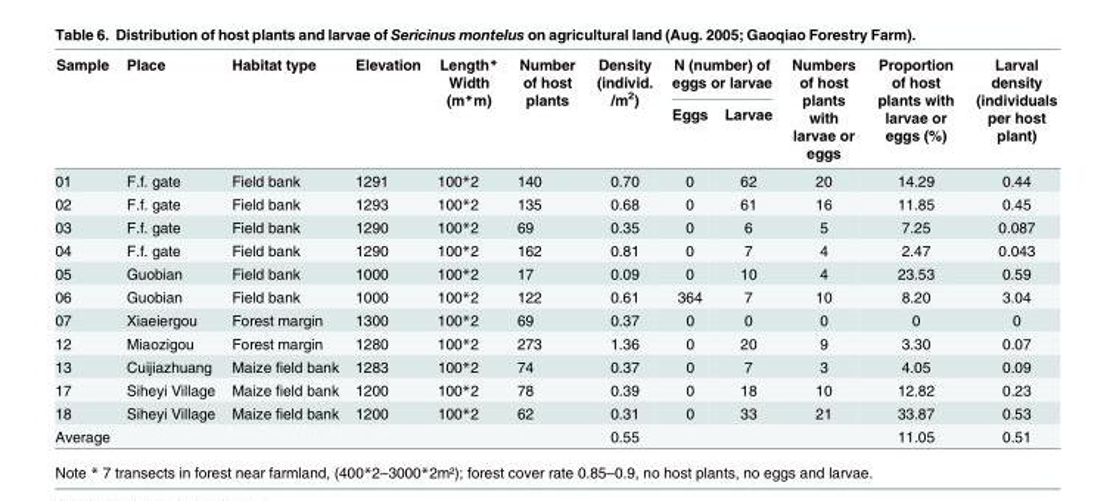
<table><thead><tr><td rowspan="2">Sample</td><td rowspan="2">Place</td><td rowspan="2">Habitat type</td><td rowspan="2">Elevation</td><td rowspan="2">Length* Width (m*m)</td><td rowspan="2">Number of host plants</td><td rowspan="2">Density (individ. /m<sup>2</sup>)</td><td colspan="2">N (number) of eggs or larvae</td><td rowspan="2">Numbers of host plants with larvae or eggs</td><td rowspan="2">Proportion of host plants with larvae or eggs (%)</td><td rowspan="2">Larval density (individuals per host plant)</td></tr><tr><td>Eggs</td><td>Larvae</td></tr></thead><tbody><tr><td>01</td><td>F.f. gate</td><td>Field bank</td><td>1291</td><td>100*2</td><td>140</td><td>0.70</td><td>0</td><td>62</td><td>20</td><td>14.29</td><td>0.44</td></tr><tr><td>02</td><td>F.f. gate</td><td>Field bank</td><td>1293</td><td>100*2</td><td>135</td><td>0.68</td><td>0</td><td>61</td><td>16</td><td>11.85</td><td>0.45</td></tr><tr><td>03</td><td>F.f. gate</td><td>Field bank</td><td>1290</td><td>100*2</td><td>69</td><td>0.35</td><td>0</td><td>6</td><td>5</td><td>7.25</td><td>0.087</td></tr><tr><td>04</td><td>F.f. gate</td><td>Field bank</td><td>1290</td><td>100*2</td><td>162</td><td>0.81</td><td>0</td><td>7</td><td>4</td><td>2.47</td><td>0.043</td></tr><tr><td>05</td><td>Guobian</td><td>Field bank</td><td>1000</td><td>100*2</td><td>17</td><td>0.09</td><td>0</td><td>10</td><td>4</td><td>23.53</td><td>0.59</td></tr><tr><td>06</td><td>Guobian</td><td>Field bank</td><td>1000</td><td>100*2</td><td>122</td><td>0.61</td><td>364</td><td>7</td><td>10</td><td>8.20</td><td>3.04</td></tr><tr><td>07</td><td>Xiaeiergou</td><td>Forest margin</td><td>1300</td><td>100*2</td><td>69</td><td>0.37</td><td>0</td><td>0</td><td>0</td><td>0</td><td>0</td></tr><tr><td>12</td><td>Miaozigou</td><td>Forest margin</td><td>1280</td><td>100*2</td><td>273</td><td>1.36</td><td>0</td><td>20</td><td>9</td><td>3.30</td><td>0.07</td></tr><tr><td>13</td><td>Cuijiazhuang</td><td>Maize field bank</td><td>1283</td><td>100*2</td><td>74</td><td>0.37</td><td>0</td><td>7</td><td>3</td><td>4.05</td><td>0.09</td></tr><tr><td>17</td><td>Siheyi Village</td><td>Maize field bank</td><td>1200</td><td>100*2</td><td>78</td><td>0.39</td><td>0</td><td>18</td><td>10</td><td>12.82</td><td>0.23</td></tr><tr><td>18</td><td>Siheyi Village</td><td>Maize field bank</td><td>1200</td><td>100*2</td><td>62</td><td>0.31</td><td>0</td><td>33</td><td>21</td><td>33.87</td><td>0.53</td></tr><tr><td>Average</td><td></td><td></td><td></td><td></td><td></td><td>0.55</td><td></td><td></td><td></td><td>11.05</td><td>0.51</td></tr></tbody></table>